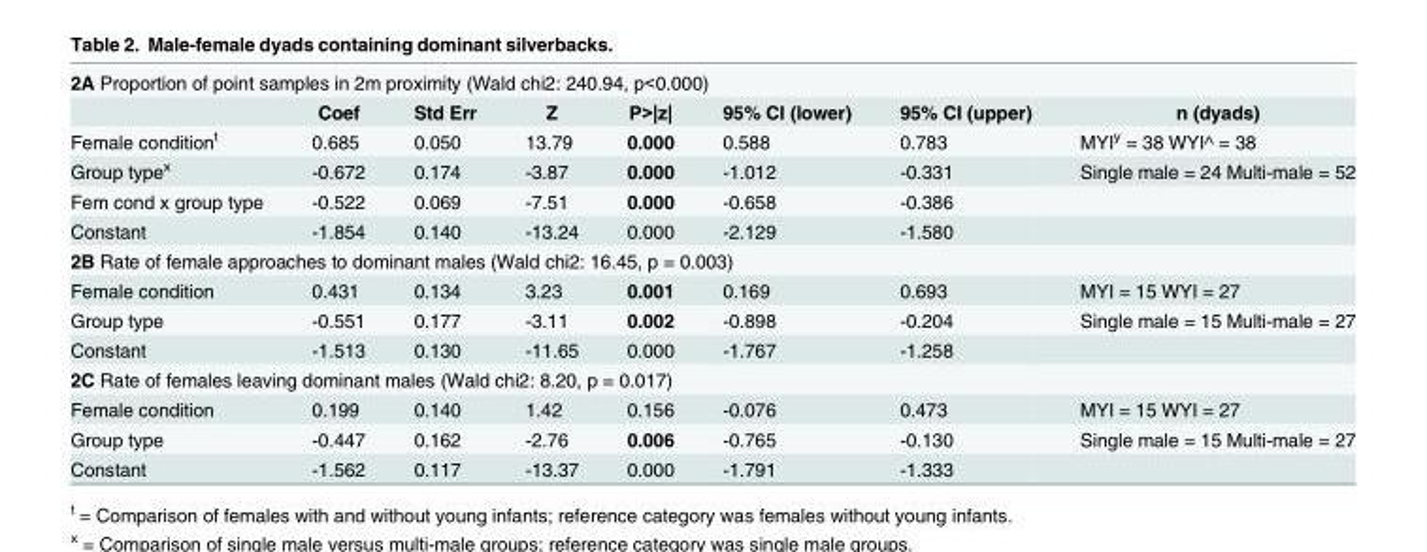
<table><tbody><tr><td colspan="8">2A Proportion of point samples in 2m proximity (Wald chi2: 240.94, p&lt;0.000)</td></tr><tr><td></td><td>Coef</td><td>Std Err</td><td>Z</td><td>P&gt;|z|</td><td>95% CI (lower)</td><td>95% CI (upper)</td><td>n (dyads)</td></tr><tr><td>Female condition<sup>t</sup></td><td>0.685</td><td>0.050</td><td>13.79</td><td>0.000</td><td>0.588</td><td>0.783</td><td>MYI<sup>y</sup> = 38 WYI^ = 38</td></tr><tr><td>Group type<sup>x</sup></td><td>-0.672</td><td>0.174</td><td>-3.87</td><td>0.000</td><td>-1.012</td><td>-0.331</td><td>Single male = 24 Multi-male = 52</td></tr><tr><td>Fem cond x group type</td><td>-0.522</td><td>0.069</td><td>-7.51</td><td>0.000</td><td>-0.658</td><td>-0.386</td><td></td></tr><tr><td>Constant</td><td>-1.854</td><td>0.140</td><td>-13.24</td><td>0.000</td><td>-2.129</td><td>-1.580</td><td></td></tr><tr><td colspan="8">2B Rate of female approaches to dominant males (Wald chi2: 16.45, p = 0.003)</td></tr><tr><td>Female condition</td><td>0.431</td><td>0.134</td><td>3.23</td><td>0.001</td><td>0.169</td><td>0.693</td><td>MYI = 15 WYI = 27</td></tr><tr><td>Group type</td><td>-0.551</td><td>0.177</td><td>-3.11</td><td>0.002</td><td>-0.898</td><td>-0.204</td><td>Single male = 15 Multi-male = 27</td></tr><tr><td>Constant</td><td>-1.513</td><td>0.130</td><td>-11.65</td><td>0.000</td><td>-1.767</td><td>-1.258</td><td></td></tr><tr><td colspan="8">2C Rate of females leaving dominant males (Wald chi2: 8.20, p = 0.017)</td></tr><tr><td>Female condition</td><td>0.199</td><td>0.140</td><td>1.42</td><td>0.156</td><td>-0.076</td><td>0.473</td><td>MYI = 15 WYI = 27</td></tr><tr><td>Group type</td><td>-0.447</td><td>0.162</td><td>-2.76</td><td>0.006</td><td>-0.765</td><td>-0.130</td><td>Single male = 15 Multi-male = 27</td></tr><tr><td>Constant</td><td>-1.562</td><td>0.117</td><td>-13.37</td><td>0.000</td><td>-1.791</td><td>-1.333</td><td></td></tr></tbody></table>